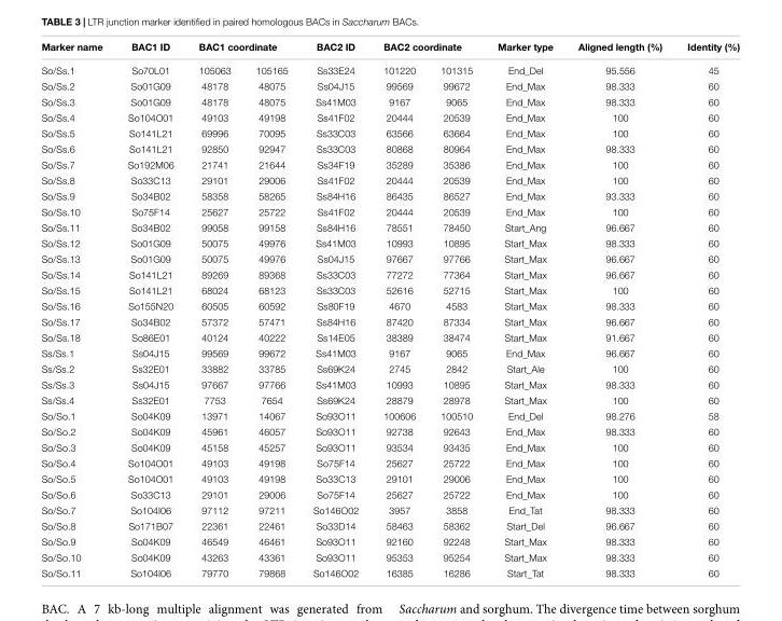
<table><thead><tr><td rowspan="2">Marker name So/Ss.1</td><td rowspan="2">BAC1 ID So70L01</td><td colspan="2">BAC1 coordinate</td><td rowspan="2">BAC2 ID Ss33E24</td><td colspan="2">BAC2 coordinate</td><td rowspan="2">Marker type End_Del</td><td rowspan="2">Aligned length (%) 95.556</td><td rowspan="2">Identity (%) 45</td></tr><tr><td>105063</td><td>105165</td><td>101220</td><td>101315</td></tr></thead><tbody><tr><td>So/Ss.2</td><td>So01G09</td><td>48178</td><td>48075</td><td>Ss04J15</td><td>99569</td><td>99672</td><td>End_Max</td><td>98.333</td><td>60</td></tr><tr><td>So/Ss.3</td><td>So01G09</td><td>48178</td><td>48075</td><td>Ss41M03</td><td>9167</td><td>9065</td><td>End_Max</td><td>98.333</td><td>60</td></tr><tr><td>So/Ss.4</td><td>So104O01</td><td>49103</td><td>49198</td><td>Ss41F02</td><td>20444</td><td>20539</td><td>End_Max</td><td>100</td><td>60</td></tr><tr><td>So/Ss.5</td><td>So141L21</td><td>69996</td><td>70095</td><td>Ss33C03</td><td>63566</td><td>63664</td><td>End_Max</td><td>100</td><td>60</td></tr><tr><td>So/Ss.6</td><td>So141L21</td><td>92850</td><td>92947</td><td>Ss33C03</td><td>80868</td><td>80964</td><td>End_Max</td><td>98.333</td><td>60</td></tr><tr><td>So/Ss.7</td><td>So192M06</td><td>21741</td><td>21644</td><td>Ss34F19</td><td>35289</td><td>35386</td><td>End_Max</td><td>100</td><td>60</td></tr><tr><td>So/Ss.8</td><td>So33C13</td><td>29101</td><td>29006</td><td>Ss41F02</td><td>20444</td><td>20539</td><td>End_Max</td><td>100</td><td>60</td></tr><tr><td>So/Ss.9</td><td>So34B02</td><td>58358</td><td>58265</td><td>Ss84H16</td><td>86435</td><td>86527</td><td>End_Max</td><td>93.333</td><td>60</td></tr><tr><td>So/Ss.10</td><td>So75F14</td><td>25627</td><td>25722</td><td>Ss41F02</td><td>20444</td><td>20539</td><td>End_Max</td><td>100</td><td>60</td></tr><tr><td>So/Ss.11</td><td>So34B02</td><td>99058</td><td>99158</td><td>Ss84H16</td><td>78551</td><td>78450</td><td>Start_Ang</td><td>96.667</td><td>60</td></tr><tr><td>So/Ss.12</td><td>So01G09</td><td>50075</td><td>49976</td><td>Ss41M03</td><td>10993</td><td>10895</td><td>Start_Max</td><td>98.333</td><td>60</td></tr><tr><td>So/Ss.13</td><td>So01G09</td><td>50075</td><td>49976</td><td>Ss04J15</td><td>97667</td><td>97766</td><td>Start_Max</td><td>96.667</td><td>60</td></tr><tr><td>So/Ss.14</td><td>So141L21</td><td>89269</td><td>89368</td><td>Ss33C03</td><td>77272</td><td>77364</td><td>Start_Max</td><td>96.667</td><td>60</td></tr><tr><td>So/Ss.15</td><td>So141L21</td><td>68024</td><td>68123</td><td>Ss33C03</td><td>52616</td><td>52715</td><td>Start_Max</td><td>100</td><td>60</td></tr><tr><td>So/Ss.16</td><td>So155N20</td><td>60505</td><td>60592</td><td>Ss80F19</td><td>4670</td><td>4583</td><td>Start_Max</td><td>98.333</td><td>60</td></tr><tr><td>So/Ss.17</td><td>So34B02</td><td>57372</td><td>57471</td><td>Ss84H16</td><td>87420</td><td>87334</td><td>Start_Max</td><td>96.667</td><td>60</td></tr><tr><td>So/Ss.18</td><td>So86E01</td><td>40124</td><td>40222</td><td>Ss14E05</td><td>38389</td><td>38474</td><td>Start_Max</td><td>91.667</td><td>60</td></tr><tr><td>Ss/Ss.1</td><td>Ss04J15</td><td>99569</td><td>99672</td><td>Ss41M03</td><td>9167</td><td>9065</td><td>End_Max</td><td>96.667</td><td>60</td></tr><tr><td>Ss/Ss.2</td><td>Ss32E01</td><td>33882</td><td>33785</td><td>Ss69K24</td><td>2745</td><td>2842</td><td>Start_Ale</td><td>100</td><td>60</td></tr><tr><td>Ss/Ss.3</td><td>Ss04J15</td><td>97667</td><td>97766</td><td>Ss41M03</td><td>10993</td><td>10895</td><td>Start_Max</td><td>98.333</td><td>60</td></tr><tr><td>Ss/Ss.4</td><td>Ss32E01</td><td>7753</td><td>7654</td><td>Ss69K24</td><td>28879</td><td>28978</td><td>Start_Max</td><td>100</td><td>60</td></tr><tr><td>So/So.1</td><td>So04K09</td><td>13971</td><td>14067</td><td>So93O11</td><td>100606</td><td>100510</td><td>End_Del</td><td>98.276</td><td>58</td></tr><tr><td>So/So.2</td><td>So04K09</td><td>45961</td><td>46057</td><td>So93O11</td><td>92738</td><td>92643</td><td>End_Max</td><td>98.333</td><td>60</td></tr><tr><td>So/So.3</td><td>So04K09</td><td>45158</td><td>45257</td><td>So93O11</td><td>93534</td><td>93435</td><td>End_Max</td><td>100</td><td>60</td></tr><tr><td>So/So.4</td><td>So104O01</td><td>49103</td><td>49198</td><td>So75F14</td><td>25627</td><td>25722</td><td>End_Max</td><td>100</td><td>60</td></tr><tr><td>So/So.5</td><td>So104O01</td><td>49103</td><td>49198</td><td>So33C13</td><td>29101</td><td>29006</td><td>End_Max</td><td>100</td><td>60</td></tr><tr><td>So/So.6</td><td>So33C13</td><td>29101</td><td>29006</td><td>So75F14</td><td>25627</td><td>25722</td><td>End_Max</td><td>100</td><td>60</td></tr><tr><td>So/So.7</td><td>So104I06</td><td>97112</td><td>97211</td><td>So146O02</td><td>3957</td><td>3858</td><td>End_Tat</td><td>98.333</td><td>60</td></tr><tr><td>So/So.8</td><td>So171B07</td><td>22361</td><td>22461</td><td>So33D14</td><td>58463</td><td>58362</td><td>Start_Del</td><td>96.667</td><td>60</td></tr><tr><td>So/So.9</td><td>So04K09</td><td>46549</td><td>46461</td><td>So93O11</td><td>92160</td><td>92248</td><td>Start_Max</td><td>98.333</td><td>60</td></tr><tr><td>So/So.10</td><td>So04K09</td><td>43263</td><td>43361</td><td>So93O11</td><td>95353</td><td>95254</td><td>Start_Max</td><td>98.333</td><td>60</td></tr><tr><td>So/So.11</td><td>So104I06</td><td>79770</td><td>79868</td><td>So146O02</td><td>16385</td><td>16286</td><td>Start_Tat</td><td>98.333</td><td>60</td></tr></tbody></table>